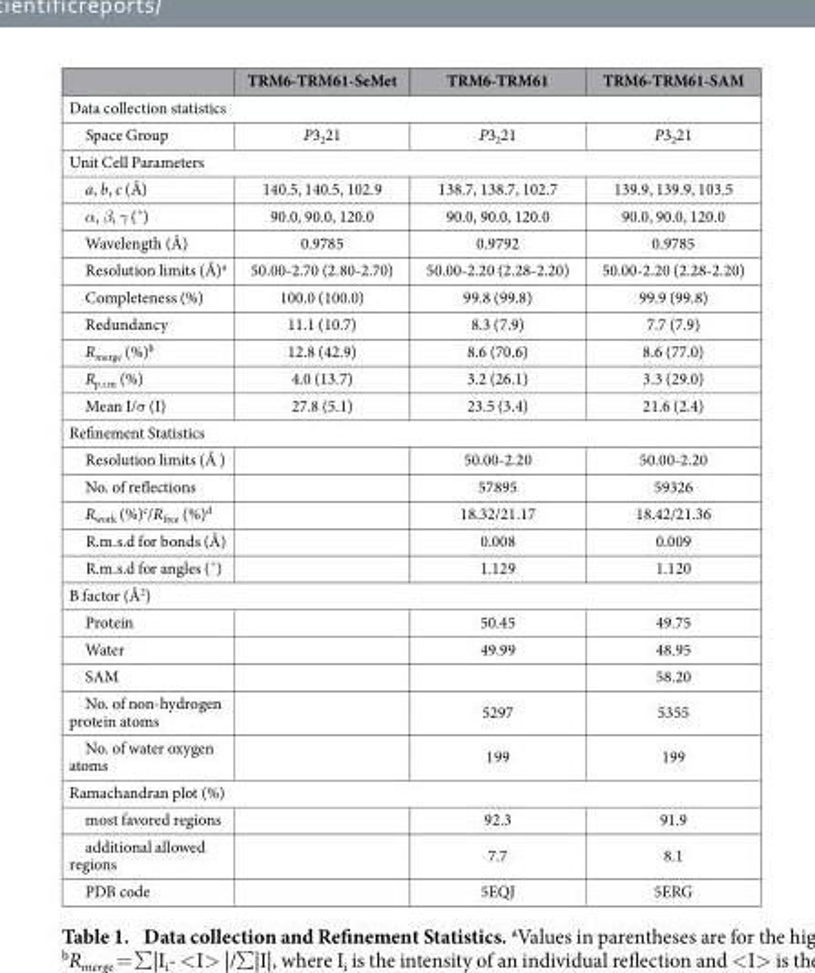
<table><thead><tr><td></td><td>TRM6-TRM61-SeMet</td><td>TRM6-TRM61</td><td>TRM6-TRM61-SAM</td></tr></thead><tbody><tr><td colspan="4">Data collection statistics</td></tr><tr><td>Space Group</td><td>P3<sub>2</sub>21</td><td>P3<sub>2</sub>21</td><td>P3<sub>2</sub>21</td></tr><tr><td colspan="4">Unit Cell Parameters</td></tr><tr><td>a, b, c (Å)</td><td>140.5, 140.5, 102.9</td><td>138.7, 138.7, 102.7</td><td>139.9, 139.9, 103.5</td></tr><tr><td>α, β, γ (˚)</td><td>90.0, 90.0, 120.0</td><td>90.0, 90.0, 120.0</td><td>90.0, 90.0, 120.0</td></tr><tr><td>Wavelength (Å)</td><td>0.9785</td><td>0.9792</td><td>0.9785</td></tr><tr><td>Resolution limits (Å)<sup>a</sup></td><td>50.00-2.70 (2.80-2.70)</td><td>50.00-2.20 (2.28-2.20)</td><td>50.00-2.20 (2.28-2.20)</td></tr><tr><td>Completeness (%)</td><td>100.0 (100.0)</td><td>99.8 (99.8)</td><td>99.9 (99.8)</td></tr><tr><td>Redundancy</td><td>11.1 (10.7)</td><td>8.3 (7.9)</td><td>7.7 (7.9)</td></tr><tr><td>R<sub>merge</sub> (%)<sup>b</sup></td><td>12.8 (42.9)</td><td>8.6 (70.6)</td><td>8.6 (77.0)</td></tr><tr><td>R<sub>p.i.m</sub> (%)</td><td>4.0 (13.7)</td><td>3.2 (26.1)</td><td>3.3 (29.0)</td></tr><tr><td>Mean I/σ (I)</td><td>27.8 (5.1)</td><td>23.5 (3.4)</td><td>21.6 (2.4)</td></tr><tr><td colspan="4">Refinement Statistics</td></tr><tr><td>Resolution limits (Å )</td><td></td><td>50.00-2.20</td><td>50.00-2.20</td></tr><tr><td>No. of reflections</td><td></td><td>57895</td><td>59326</td></tr><tr><td>R<sub>work</sub> (%)<sup>c</sup>/R<sub>free</sub> (%)<sup>d</sup></td><td></td><td>18.32/21.17</td><td>18.42/21.36</td></tr><tr><td>R.m.s.d for bonds (Å)</td><td></td><td>0.008</td><td>0.009</td></tr><tr><td>R.m.s.d for angles (˚)</td><td></td><td>1.129</td><td>1.120</td></tr><tr><td colspan="4">B factor (Å<sup>2</sup>)</td></tr><tr><td>Protein</td><td></td><td>50.45</td><td>49.75</td></tr><tr><td>Water</td><td></td><td>49.99</td><td>48.95</td></tr><tr><td>SAM</td><td></td><td></td><td>58.20</td></tr><tr><td>No. of non-hydrogen protein atoms</td><td></td><td>5297</td><td>5355</td></tr><tr><td>No. of water oxygen atoms</td><td></td><td>199</td><td>199</td></tr><tr><td colspan="4">Ramachandran plot (%)</td></tr><tr><td>most favored regions</td><td></td><td>92.3</td><td>91.9</td></tr><tr><td>additional allowed regions</td><td></td><td>7.7</td><td>8.1</td></tr><tr><td>PDB code</td><td></td><td>5EQJ</td><td>5ERG</td></tr></tbody></table>